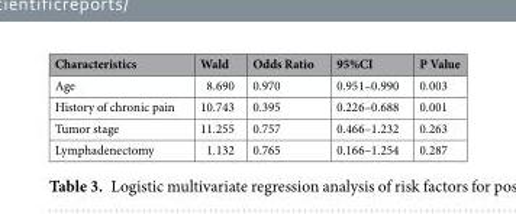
<table><thead><tr><td>Characteristics</td><td>Wald</td><td>Odds Ratio</td><td>95%CI</td><td>P Value</td></tr></thead><tbody><tr><td>Age</td><td>8.690</td><td>0.970</td><td>0.951–0.990</td><td>0.003</td></tr><tr><td>History of chronic pain</td><td>10.743</td><td>0.395</td><td>0.226–0.688</td><td>0.001</td></tr><tr><td>Tumor stage</td><td>11.255</td><td>0.757</td><td>0.466–1.232</td><td>0.263</td></tr><tr><td>Lymphadenectomy</td><td>1.132</td><td>0.765</td><td>0.166–1.254</td><td>0.287</td></tr></tbody></table>